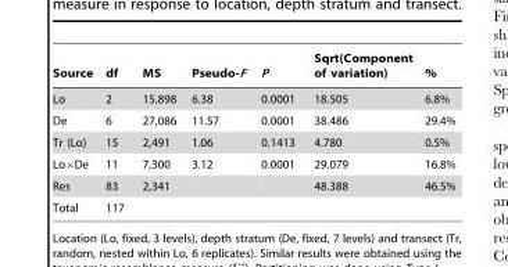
<table><thead><tr><td>Source</td><td>df</td><td>MS</td><td>Pseudo-F</td><td>P</td><td>Sqrt(Component of variation)</td><td>%</td></tr></thead><tbody><tr><td>Lo</td><td>2</td><td>15,898</td><td>6.38</td><td>0.0001</td><td>18.505</td><td>6.8%</td></tr><tr><td>De</td><td>6</td><td>27,086</td><td>11.57</td><td>0.0001</td><td>38.486</td><td>29.4%</td></tr><tr><td>Tr (Lo)</td><td>15</td><td>2,491</td><td>1.06</td><td>0.1413</td><td>4.780</td><td>0.5%</td></tr><tr><td>Lo×De</td><td>11</td><td>7,300</td><td>3.12</td><td>0.0001</td><td>29.079</td><td>16.8%</td></tr><tr><td>Res</td><td>83</td><td>2,341</td><td></td><td></td><td>48.388</td><td>46.5%</td></tr><tr><td>Total</td><td>117</td><td></td><td></td><td></td><td></td><td></td></tr></tbody></table>